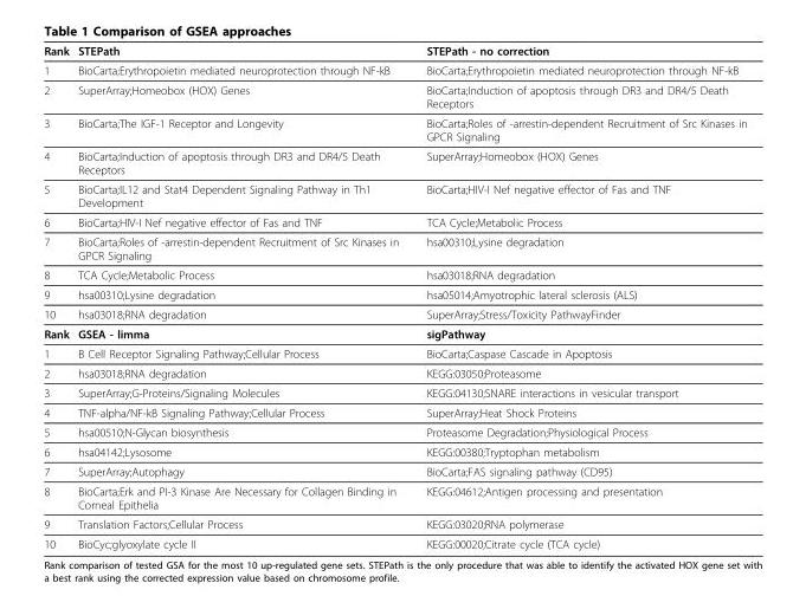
<table><thead><tr><td>Rank</td><td>STEPath</td><td>STEPath - no correction</td></tr></thead><tbody><tr><td>1</td><td>BioCarta;Erythropoietin mediated neuroprotection through NF-kB</td><td>BioCarta;Erythropoietin mediated neuroprotection through NF-kB</td></tr><tr><td>2</td><td>SuperArray;Homeobox (HOX) Genes</td><td>BioCarta;Induction of apoptosis through DR3 and DR4/5 Death Receptors</td></tr><tr><td>3</td><td>BioCarta;The IGF-1 Receptor and Longevity</td><td>BioCarta;Roles of -arrestin-dependent Recruitment of Src Kinases in GPCR Signaling</td></tr><tr><td>4</td><td>BioCarta;Induction of apoptosis through DR3 and DR4/5 Death Receptors</td><td>SuperArray;Homeobox (HOX) Genes</td></tr><tr><td>5</td><td>BioCarta;IL12 and Stat4 Dependent Signaling Pathway in Th1 Development</td><td>BioCarta;HIV-I Nef negative effector of Fas and TNF</td></tr><tr><td>6</td><td>BioCarta;HIV-I Nef negative effector of Fas and TNF</td><td>TCA Cycle;Metabolic Process</td></tr><tr><td>7</td><td>BioCarta;Roles of -arrestin-dependent Recruitment of Src Kinases in GPCR Signaling</td><td>hsa00310;Lysine degradation</td></tr><tr><td>8</td><td>TCA Cycle;Metabolic Process</td><td>hsa03018;RNA degradation</td></tr><tr><td>9</td><td>hsa00310;Lysine degradation</td><td>hsa05014;Amyotrophic lateral sclerosis (ALS)</td></tr><tr><td>10</td><td>hsa03018;RNA degradation</td><td>SuperArray;Stress/Toxicity PathwayFinder</td></tr><tr><td>Rank</td><td>GSEA - limma</td><td>sigPathway</td></tr><tr><td>1</td><td>B Cell Receptor Signaling Pathway;Cellular Process</td><td>BioCarta;Caspase Cascade in Apoptosis</td></tr><tr><td>2</td><td>hsa03018;RNA degradation</td><td>KEGG:03050;Proteasome</td></tr><tr><td>3</td><td>SuperArray;G-Proteins/Signaling Molecules</td><td>KEGG:04130;SNARE interactions in vesicular transport</td></tr><tr><td>4</td><td>TNF-alpha/NF-kB Signaling Pathway;Cellular Process</td><td>SuperArray;Heat Shock Proteins</td></tr><tr><td>5</td><td>hsa00510;N-Glycan biosynthesis</td><td>Proteasome Degradation;Physiological Process</td></tr><tr><td>6</td><td>hsa04142;Lysosome</td><td>KEGG:00380;Tryptophan metabolism</td></tr><tr><td>7</td><td>SuperArray;Autophagy</td><td>BioCarta;FAS signaling pathway (CD95)</td></tr><tr><td>8</td><td>BioCarta;Erk and PI-3 Kinase Are Necessary for Collagen Binding in Corneal Epithelia</td><td>KEGG:04612;Antigen processing and presentation</td></tr><tr><td>9</td><td>Translation Factors;Cellular Process</td><td>KEGG:03020;RNA polymerase</td></tr><tr><td>10</td><td>BioCyc;glyoxylate cycle II</td><td>KEGG:00020;Citrate cycle (TCA cycle)</td></tr></tbody></table>